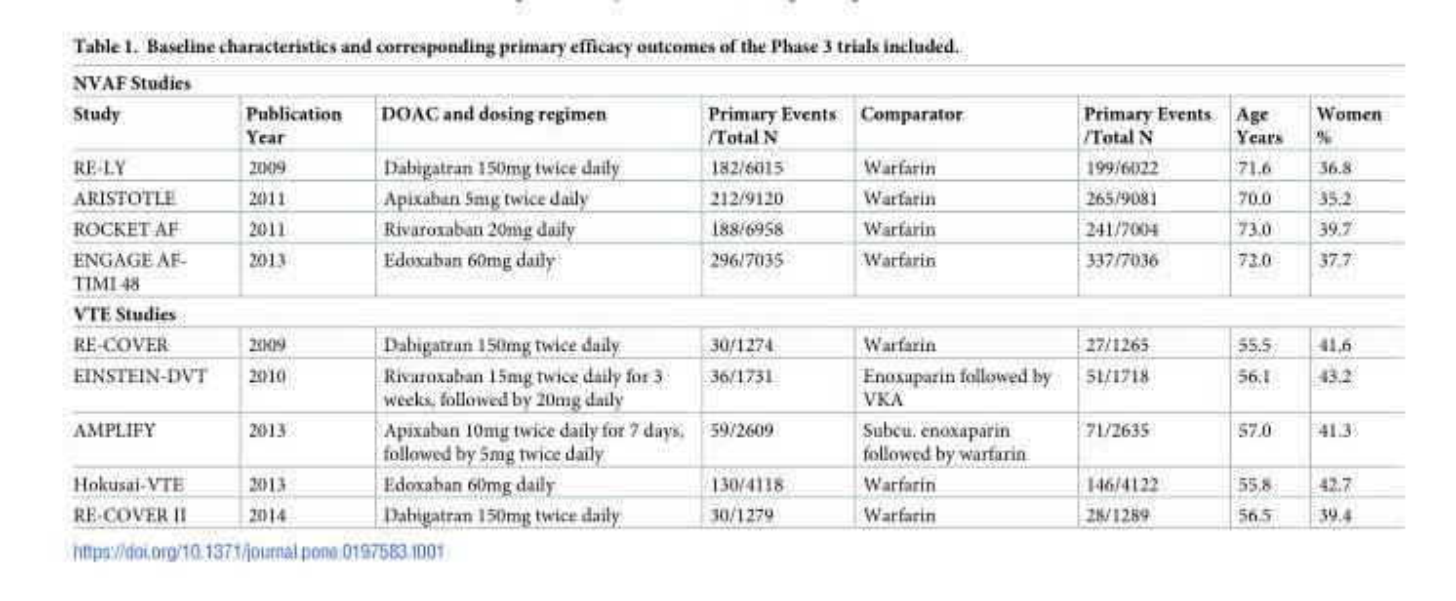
<table><thead><tr><td colspan="8">NVAF Studies</td></tr><tr><td>Study</td><td>Publication Year</td><td>DOAC and dosing regimen</td><td>Primary Events /Total N</td><td>Comparator</td><td>Primary Events /Total N</td><td>Age Years</td><td>Women %</td></tr></thead><tbody><tr><td>RE-LY</td><td>2009</td><td>Dabigatran 150mg twice daily</td><td>182/6015</td><td>Warfarin</td><td>199/6022</td><td>71.6</td><td>36.8</td></tr><tr><td>ARISTOTLE</td><td>2011</td><td>Apixaban 5mg twice daily</td><td>212/9120</td><td>Warfarin</td><td>265/9081</td><td>70.0</td><td>35.2</td></tr><tr><td>ROCKET AF</td><td>2011</td><td>Rivaroxaban 20mg daily</td><td>188/6958</td><td>Warfarin</td><td>241/7004</td><td>73.0</td><td>39.7</td></tr><tr><td>ENGAGE AF- TIMI 48</td><td>2013</td><td>Edoxaban 60mg daily</td><td>296/7035</td><td>Warfarin</td><td>337/7036</td><td>72.0</td><td>37.7</td></tr><tr><td colspan="8">VTE Studies</td></tr><tr><td>RE-COVER</td><td>2009</td><td>Dabigatran 150mg twice daily</td><td>30/1274</td><td>Warfarin</td><td>27/1265</td><td>55.5</td><td>41.6</td></tr><tr><td>EINSTEIN-DVT</td><td>2010</td><td>Rivaroxaban 15mg twice daily for 3 weeks, followed by 20mg daily</td><td>36/1731</td><td>Enoxaparin followed by VKA</td><td>51/1718</td><td>56.1</td><td>43.2</td></tr><tr><td>AMPLIFY</td><td>2013</td><td>Apixaban 10mg twice daily for 7 days, followed by 5mg twice daily</td><td>59/2609</td><td>Subcu. enoxaparin followed by warfarin</td><td>71/2635</td><td>57.0</td><td>41.3</td></tr><tr><td>Hokusai-VTE</td><td>2013</td><td>Edoxaban 60mg daily</td><td>130/4118</td><td>Warfarin</td><td>146/4122</td><td>55.8</td><td>42.7</td></tr><tr><td>RE-COVER II</td><td>2014</td><td>Dabigatran 150mg twice daily</td><td>30/1279</td><td>Warfarin</td><td>28/1289</td><td>56.5</td><td>39.4</td></tr></tbody></table>